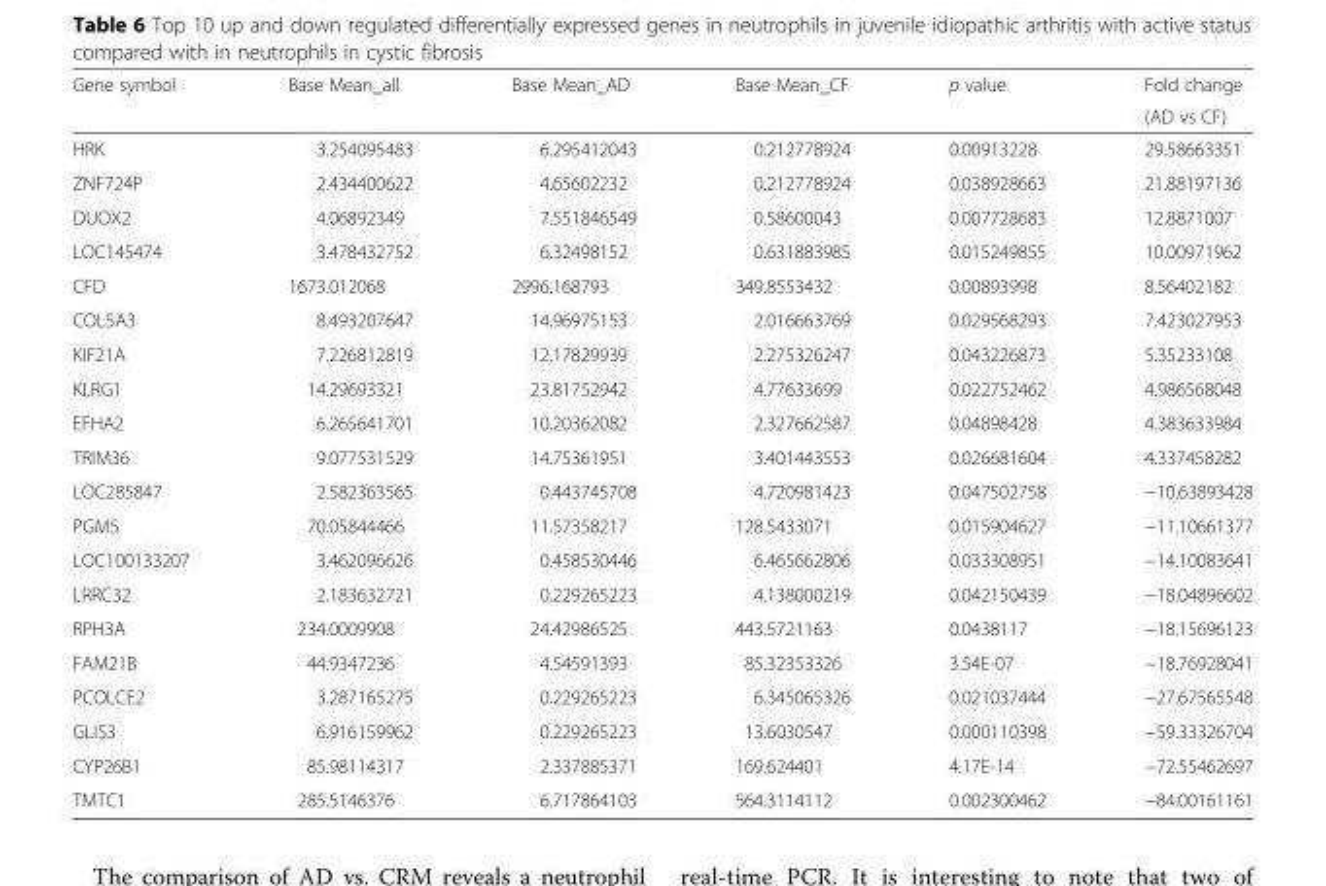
<table><thead><tr><td rowspan="2">Gene symbol</td><td rowspan="2">Base Mean_all</td><td rowspan="2">Base Mean_AD</td><td rowspan="2">Base Mean_CF</td><td rowspan="2">p value</td><td rowspan="2">Fold change (AD vs CF)</td></tr><tr></tr></thead><tbody><tr><td>HRK</td><td>3.254095483</td><td>6.295412043</td><td>0.212778924</td><td>0.00913228</td><td>29.58663351</td></tr><tr><td>ZNF724P</td><td>2.434400622</td><td>4.65602232</td><td>0.212778924</td><td>0.038928663</td><td>21.88197136</td></tr><tr><td>DUOX2</td><td>4.06892349</td><td>7.551846549</td><td>0.58600043</td><td>0.007728683</td><td>12.8871007</td></tr><tr><td>LOC145474</td><td>3.478432752</td><td>6.32498152</td><td>0.631883985</td><td>0.015249855</td><td>10.00971962</td></tr><tr><td>CFD</td><td>1673.012068</td><td>2996.168793</td><td>349.8553432</td><td>0.00893998</td><td>8.56402182</td></tr><tr><td>COL5A3</td><td>8.493207647</td><td>14.96975153</td><td>2.016663769</td><td>0.029568293</td><td>7.423027953</td></tr><tr><td>KIF21A</td><td>7.226812819</td><td>12.17829939</td><td>2.275326247</td><td>0.043226873</td><td>5.35233108</td></tr><tr><td>KLRG1</td><td>14.29693321</td><td>23.81752942</td><td>4.77633699</td><td>0.022752462</td><td>4.986568048</td></tr><tr><td>EFHA2</td><td>6.265641701</td><td>10.20362082</td><td>2.327662587</td><td>0.04898428</td><td>4.383633984</td></tr><tr><td>TRIM36</td><td>9.077531529</td><td>14.75361951</td><td>3.401443553</td><td>0.026681604</td><td>4.337458282</td></tr><tr><td>LOC285847</td><td>2.582363565</td><td>0.443745708</td><td>4.720981423</td><td>0.047502758</td><td>−10.63893428</td></tr><tr><td>PGM5</td><td>70.05844466</td><td>11.57358217</td><td>128.5433071</td><td>0.015904627</td><td>−11.10661377</td></tr><tr><td>LOC100133207</td><td>3.462096626</td><td>0.458530446</td><td>6.465662806</td><td>0.033308951</td><td>−14.10083641</td></tr><tr><td>LRRC32</td><td>2.183632721</td><td>0.229265223</td><td>4.138000219</td><td>0.042150439</td><td>−18.04896602</td></tr><tr><td>RPH3A</td><td>234.0009908</td><td>24.42986525</td><td>443.5721163</td><td>0.0438117</td><td>−18.15696123</td></tr><tr><td>FAM21B</td><td>44.9347236</td><td>4.54591393</td><td>85.32353326</td><td>3.54E-07</td><td>−18.76928041</td></tr><tr><td>PCOLCE2</td><td>3.287165275</td><td>0.229265223</td><td>6.345065326</td><td>0.021037444</td><td>−27.67565548</td></tr><tr><td>GLIS3</td><td>6.916159962</td><td>0.229265223</td><td>13.6030547</td><td>0.000110398</td><td>−59.33326704</td></tr><tr><td>CYP26B1</td><td>85.98114317</td><td>2.337885371</td><td>169.624401</td><td>4.17E-14</td><td>−72.55462697</td></tr><tr><td>TMTC1</td><td>285.5146376</td><td>6.717864103</td><td>564.3114112</td><td>0.002300462</td><td>−84.00161161</td></tr></tbody></table>